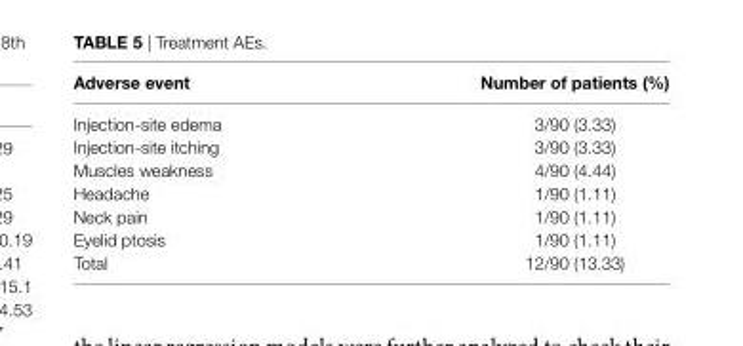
<table><thead><tr><td>adverse event</td><td>number of patients (%)</td></tr></thead><tbody><tr><td>Injection-site edema</td><td>3/90 (3.33)</td></tr><tr><td>Injection-site itching</td><td>3/90 (3.33)</td></tr><tr><td>Muscles weakness</td><td>4/90 (4.44)</td></tr><tr><td>Headache</td><td>1/90 (1.11)</td></tr><tr><td>Neck pain</td><td>1/90 (1.11)</td></tr><tr><td>Eyelid ptosis</td><td>1/90 (1.11)</td></tr><tr><td>Total</td><td>12/90 (13.33)</td></tr></tbody></table>